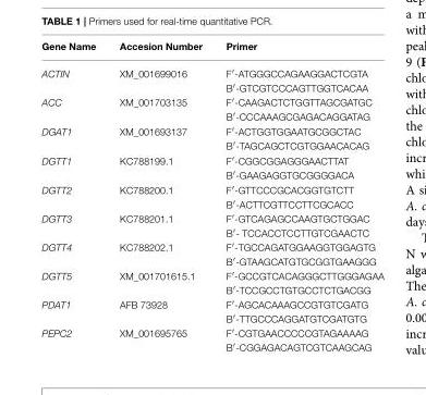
<table><thead><tr><td>Gene Name</td><td>Accesion Number</td><td>Primer</td></tr></thead><tbody><tr><td rowspan="2">ACTIN</td><td>XM_001699016</td><td>F′-ATGGGCCAGAAGGACTCGTA</td></tr><tr><td></td><td>B′-GTCGTCCCAGTTGGTCACAA</td></tr><tr><td rowspan="2">ACC</td><td>XM_001703135</td><td>F′-CAAGACTCTGGTTAGCGATGC</td></tr><tr><td></td><td>B′-CCCAAAGCGAGACAGGATAG</td></tr><tr><td rowspan="2">DGAT1</td><td>XM_001693137</td><td>F′-ACTGGTGGAATGCGGCTAC</td></tr><tr><td></td><td>B′-TAGCAGCTCGTGGAACACAG</td></tr><tr><td rowspan="2">DGTT1</td><td>KC788199.1</td><td>F′-CGGCGGAGGGAACTTAT</td></tr><tr><td></td><td>B′-GAAGAGGTGCGGGGACA</td></tr><tr><td rowspan="2">DGTT2</td><td>KC788200.1</td><td>F′-GTTCCCGCACGGTGTCTT</td></tr><tr><td></td><td>B′-ACTTCGTTCCTTCGCACC</td></tr><tr><td rowspan="2">DGTT3</td><td>KC788201.1</td><td>F′-GTCAGAGCCAAGTGCTGGAC</td></tr><tr><td></td><td>B′- TCCACCTCCTTGTCGAACTC</td></tr><tr><td rowspan="2">DGTT4</td><td>KC788202.1</td><td>F′-TGCCAGATGGAAGGTGGAGTG</td></tr><tr><td></td><td>B′-GTAAGCATGTGCGGTGAAGGG</td></tr><tr><td rowspan="2">DGTT5</td><td>XM_001701615.1</td><td>F′-GCCGTCACAGGGCTTGGGAGAA</td></tr><tr><td></td><td>B′-TCCGCCTGTGCCTCTGACGG</td></tr><tr><td rowspan="2">PDAT1</td><td>AFB 73928</td><td>F′-AGCACAAAGCCGTGTCGATG</td></tr><tr><td></td><td>B′-TTGCCCAGGATGTCGATGTG</td></tr><tr><td rowspan="2">PEPC2</td><td>XM_001695765</td><td>F′-CGTGAACCCCCGTAGAAAAG</td></tr><tr><td></td><td>B′-CGGAGACAGTCGTCAAGCAG</td></tr></tbody></table>